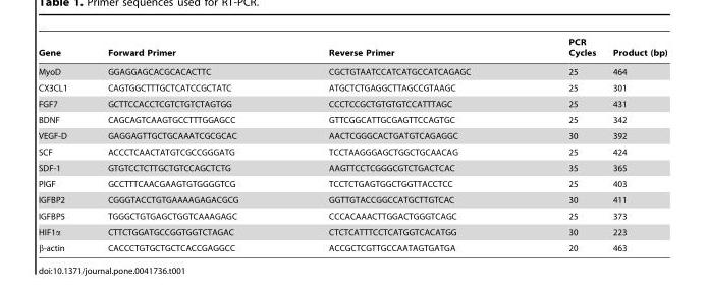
<table><thead><tr><td>Gene</td><td>Forward Primer</td><td>Reverse Primer</td><td>PCR Cycles</td><td>Product (bp)</td></tr></thead><tbody><tr><td>MyoD</td><td>GGAGGAGCACGCACACTTC</td><td>CGCTGTAATCCATCATGCCATCAGAGC</td><td>25</td><td>464</td></tr><tr><td>CX3CL1</td><td>CAGTGGCTTTGCTCATCCGCTATC</td><td>ATGCTCTGAGGCTTAGCCGTAAGC</td><td>25</td><td>301</td></tr><tr><td>FGF7</td><td>GCTTCCACCTCGTCTGTCTAGTGG</td><td>CCCTCCGCTGTGTGTCCATTTAGC</td><td>25</td><td>431</td></tr><tr><td>BDNF</td><td>CAGCAGTCAAGTGCCTTTGGAGCC</td><td>GTTCGGCATTGCGAGTTCCAGTGC</td><td>25</td><td>342</td></tr><tr><td>VEGF-D</td><td>GAGGAGTTGCTGCAAATCGCGCAC</td><td>AACTCGGGCACTGATGTCAGAGGC</td><td>30</td><td>392</td></tr><tr><td>SCF</td><td>ACCCTCAACTATGTCGCCGGGATG</td><td>TCCTAAGGGAGCTGGCTGCAACAG</td><td>25</td><td>424</td></tr><tr><td>SDF-1</td><td>GTGTCCTCTTGCTGTCCAGCTCTG</td><td>AAGTTCCTCGGGCGTCTGACTCAC</td><td>35</td><td>365</td></tr><tr><td>PlGF</td><td>GCCTTTCAACGAAGTGTGGGGTCG</td><td>TCCTCTGAGTGGCTGGTTACCTCC</td><td>25</td><td>403</td></tr><tr><td>IGFBP2</td><td>CGGGTACCTGTGAAAAGAGACGCG</td><td>GGTTGTACCGGCCATGCTTGTCAC</td><td>30</td><td>411</td></tr><tr><td>IGFBP5</td><td>TGGGCTGTGAGCTGGTCAAAGAGC</td><td>CCCACAAACTTGGACTGGGTCAGC</td><td>25</td><td>373</td></tr><tr><td>HIF1α</td><td>CTTCTGGATGCCGGTGGTCTAGAC</td><td>CTCTCATTTCCTCATGGTCACATGG</td><td>30</td><td>223</td></tr><tr><td>β-actin</td><td>CACCCTGTGCTGCTCACCGAGGCC</td><td>ACCGCTCGTTGCCAATAGTGATGA</td><td>20</td><td>463</td></tr></tbody></table>